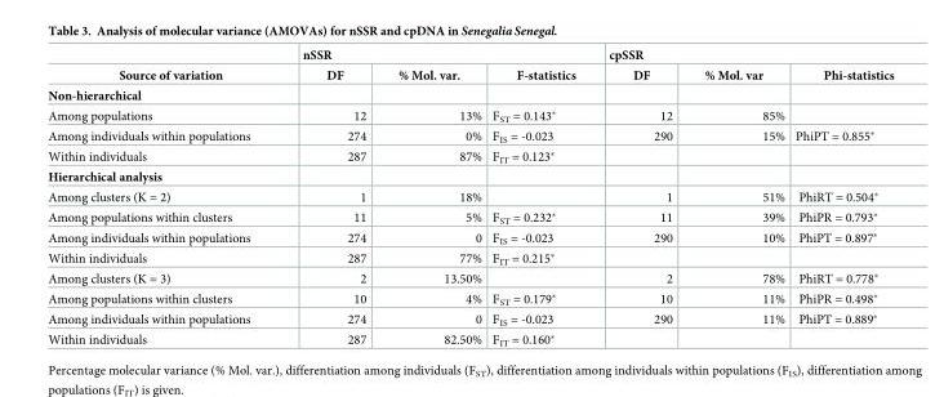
<table><thead><tr><td rowspan="2">Source of variation</td><td colspan="3">nSSR</td><td colspan="3">cpSSR</td></tr><tr><td>DF</td><td>% Mol. var.</td><td>F-statistics</td><td>DF</td><td>% Mol. var</td><td>Phi-statistics</td></tr></thead><tbody><tr><td colspan="7">Non-hierarchical</td></tr><tr><td>Among populations</td><td>12</td><td>13%</td><td>F<sub>ST</sub> = 0.143*</td><td>12</td><td>85%</td><td></td></tr><tr><td>Among individuals within populations</td><td>274</td><td>0%</td><td>F<sub>IS</sub> = -0.023</td><td>290</td><td>15%</td><td>PhiPT = 0.855*</td></tr><tr><td>Within individuals</td><td>287</td><td>87%</td><td>F<sub>IT</sub> = 0.123*</td><td></td><td></td><td></td></tr><tr><td colspan="7">Hierarchical analysis</td></tr><tr><td>Among clusters (K = 2)</td><td>1</td><td>18%</td><td></td><td>1</td><td>51%</td><td>PhiRT = 0.504*</td></tr><tr><td>Among populations within clusters</td><td>11</td><td>5%</td><td>F<sub>ST</sub> = 0.232*</td><td>11</td><td>39%</td><td>PhiPR = 0.793*</td></tr><tr><td>Among individuals within populations</td><td>274</td><td>0</td><td>F<sub>IS</sub> = -0.023</td><td>290</td><td>10%</td><td>PhiPT = 0.897*</td></tr><tr><td>Within individuals</td><td>287</td><td>77%</td><td>F<sub>IT</sub> = 0.215*</td><td></td><td></td><td></td></tr><tr><td>Among clusters (K = 3)</td><td>2</td><td>13.50%</td><td></td><td>2</td><td>78%</td><td>PhiRT = 0.778*</td></tr><tr><td>Among populations within clusters</td><td>10</td><td>4%</td><td>F<sub>ST</sub> = 0.179*</td><td>10</td><td>11%</td><td>PhiPR = 0.498*</td></tr><tr><td>Among individuals within populations</td><td>274</td><td>0</td><td>F<sub>IS</sub> = -0.023</td><td>290</td><td>11%</td><td>PhiPT = 0.889*</td></tr><tr><td>Within individuals</td><td>287</td><td>82.50%</td><td>F<sub>IT</sub> = 0.160*</td><td></td><td></td><td></td></tr></tbody></table>